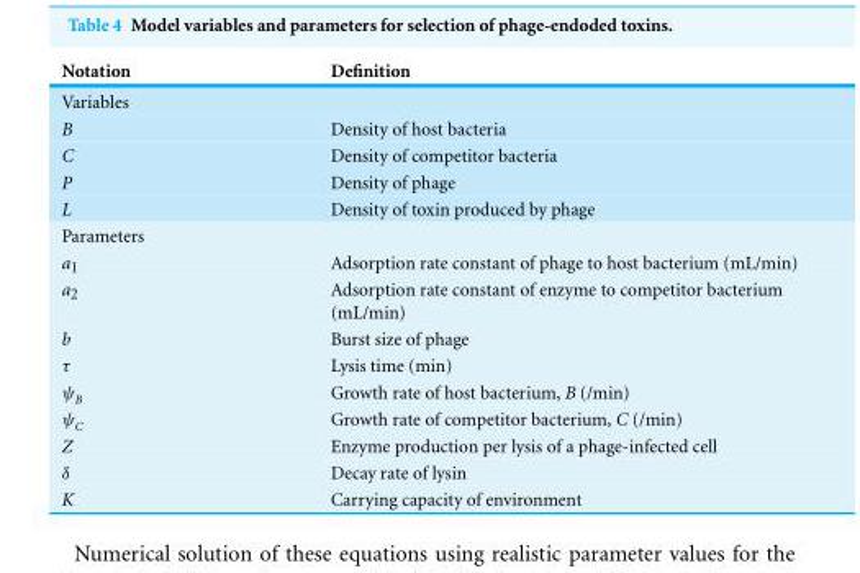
<table><thead><tr><td>Notation</td><td>Definition</td></tr></thead><tbody><tr><td colspan="2">Variables</td></tr><tr><td>B</td><td>Density of host bacteria</td></tr><tr><td>C</td><td>Density of competitor bacteria</td></tr><tr><td>P</td><td>Density of phage</td></tr><tr><td>L</td><td>Density of toxin produced by phage</td></tr><tr><td colspan="2">Parameters</td></tr><tr><td>a<sub>1</sub></td><td>Adsorption rate constant of phage to host bacterium (mL/min)</td></tr><tr><td>a<sub>2</sub></td><td>Adsorption rate constant of enzyme to competitor bacterium (mL/min)</td></tr><tr><td>b</td><td>Burst size of phage</td></tr><tr><td>τ</td><td>Lysis time (min)</td></tr><tr><td>ψB</td><td>Growth rate of host bacterium, B (/min)</td></tr><tr><td>ψC</td><td>Growth rate of competitor bacterium, C (/min)</td></tr><tr><td>Z</td><td>Enzyme production per lysis of a phage-infected cell</td></tr><tr><td>δ</td><td>Decay rate of lysin</td></tr><tr><td>K</td><td>Carrying capacity of environment</td></tr></tbody></table>